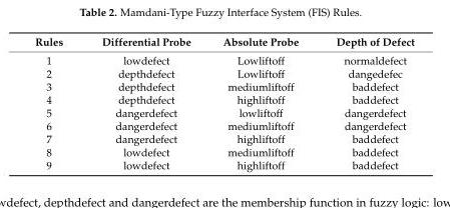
<table><thead><tr><td>Rules</td><td>Differential Probe</td><td>Absolute Probe</td><td>Depth of Defect</td></tr></thead><tbody><tr><td>1</td><td>lowdefect</td><td>Lowliftoff</td><td>normaldefect</td></tr><tr><td>2</td><td>depthdefect</td><td>Lowliftoff</td><td>dangedefec</td></tr><tr><td>3</td><td>depthdefect</td><td>mediumliftoff</td><td>baddefect</td></tr><tr><td>4</td><td>depthdefect</td><td>highliftoff</td><td>baddefect</td></tr><tr><td>5</td><td>dangerdefect</td><td>lowliftoff</td><td>dangerdefect</td></tr><tr><td>6</td><td>dangerdefect</td><td>mediumliftoff</td><td>dangerdefect</td></tr><tr><td>7</td><td>dangerdefect</td><td>highliftoff</td><td>baddefect</td></tr><tr><td>8</td><td>lowdefect</td><td>mediumliftoff</td><td>baddefect</td></tr><tr><td>9</td><td>lowdefect</td><td>highliftoff</td><td>baddefect</td></tr></tbody></table>